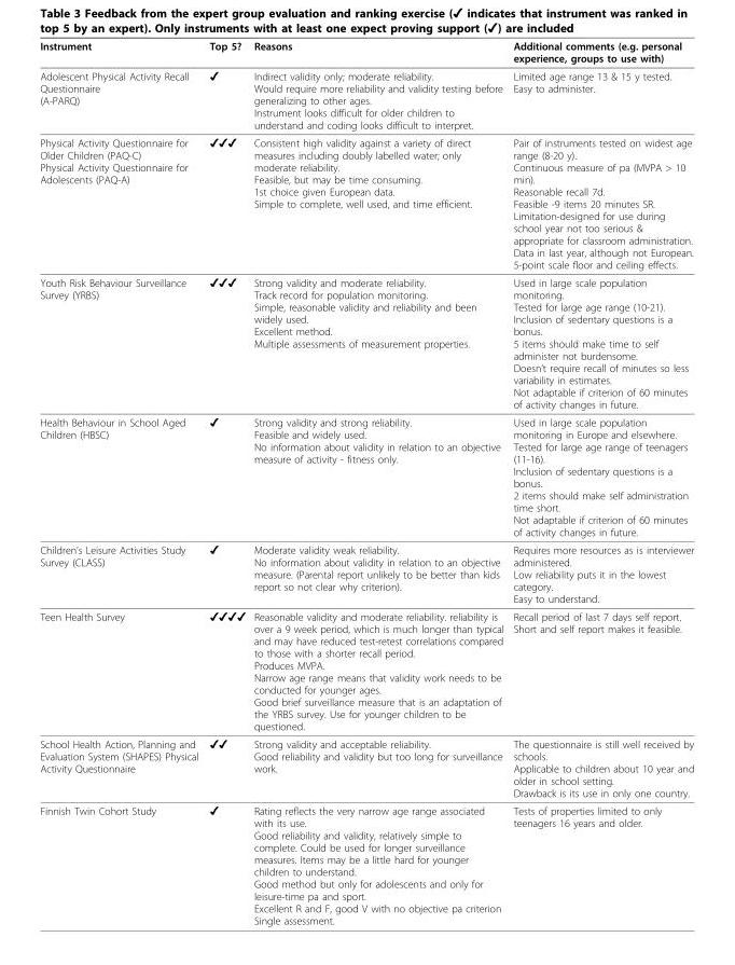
<table><thead><tr><td>Instrument</td><td>Top 5?</td><td>Reasons</td><td>Additional comments (e.g. personal experience, groups to use with)</td></tr></thead><tbody><tr><td>Adolescent Physical Activity Recall Questionnaire (A-PARQ)</td><td>✔</td><td>Indirect validity only; moderate reliability. Would require more reliability and validity testing before generalizing to other ages. Instrument looks difficult for older children to understand and coding looks difficult to interpret.</td><td>Limited age range 13 &amp; 15 y tested. Easy to administer.</td></tr><tr><td>Physical Activity Questionnaire for Older Children (PAQ-C) Physical Activity Questionnaire for Adolescents (PAQ-A)</td><td>✔✔✔</td><td>Consistent high validity against a variety of direct measures including doubly labelled water; only moderate reliability. Feasible, but may be time consuming. 1st choice given European data. Simple to complete, well used, and time efficient.</td><td>Pair of instruments tested on widest age range (8-20 y). Continuous measure of pa (MVPA &gt; 10 min). Reasonable recall 7d. Feasible -9 items 20 minutes SR. Limitation-designed for use during school year not too serious &amp; appropriate for classroom administration. Data in last year, although not European. 5-point scale floor and ceiling effects.</td></tr><tr><td>Youth Risk Behaviour Surveillance Survey (YRBS)</td><td>✔✔✔</td><td>Strong validity and moderate reliability. Track record for population monitoring. Simple, reasonable validity and reliability and been widely used. Excellent method. Multiple assessments of measurement properties.</td><td>Used in large scale population monitoring. Tested for large age range (10-21). Inclusion of sedentary questions is a bonus. 5 items should make time to self administer not burdensome. Doesn’t require recall of minutes so less variability in estimates. Not adaptable if criterion of 60 minutes of activity changes in future.</td></tr><tr><td>Health Behaviour in School Aged Children (HBSC)</td><td>✔</td><td>Strong validity and strong reliability. Feasible and widely used. No information about validity in relation to an objective measure of activity - fitness only.</td><td>Used in large scale population monitoring in Europe and elsewhere. Tested for large age range of teenagers (11-16). Inclusion of sedentary questions is a bonus. 2 items should make self administration time short. Not adaptable if criterion of 60 minutes of activity changes in future.</td></tr><tr><td>Children’s Leisure Activities Study Survey (CLASS)</td><td>✔</td><td>Moderate validity weak reliability. No information about validity in relation to an objective measure. (Parental report unlikely to be better than kids report so not clear why criterion).</td><td>Requires more resources as is interviewer administered. Low reliability puts it in the lowest category. Easy to understand.</td></tr><tr><td>Teen Health Survey</td><td>✔✔✔✔</td><td>Reasonable validity and moderate reliability. reliability is over a 9 week period, which is much longer than typical and may have reduced test-retest correlations compared to those with a shorter recall period. Produces MVPA. Narrow age range means that validity work needs to be conducted for younger ages. Good brief surveillance measure that is an adaptation of the YRBS survey. Use for younger children to be questioned.</td><td>Recall period of last 7 days self report. Short and self report makes it feasible.</td></tr><tr><td>School Health Action, Planning and Evaluation System (SHAPES) Physical Activity Questionnaire</td><td>✔✔</td><td>Strong validity and acceptable reliability. Good reliability and validity but too long for surveillance work.</td><td>The questionnaire is still well received by schools. Applicable to children about 10 year and older in school setting. Drawback is its use in only one country.</td></tr><tr><td>Finnish Twin Cohort Study</td><td>✔</td><td>Rating reflects the very narrow age range associated with its use. Good reliability and validity, relatively simple to complete. Could be used for longer surveillance measures. Items may be a little hard for younger children to understand. Good method but only for adolescents and only for leisure-time pa and sport. Excellent R and F, good V with no objective pa criterion Single assessment.</td><td>Tests of properties limited to only teenagers 16 years and older.</td></tr></tbody></table>